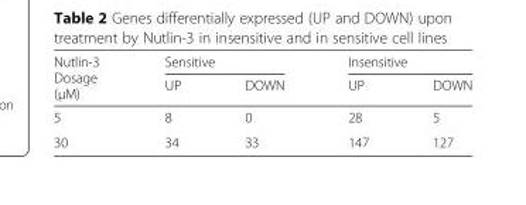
<table><thead><tr><td rowspan="2">Nutlin-3 Dosage (μM)</td><td colspan="2">Sensitive</td><td colspan="2">Insensitive</td></tr><tr><td>UP</td><td>DOWN</td><td>UP</td><td>DOWN</td></tr></thead><tbody><tr><td>5</td><td>8</td><td>0</td><td>28</td><td>5</td></tr><tr><td>30</td><td>34</td><td>33</td><td>147</td><td>127</td></tr></tbody></table>